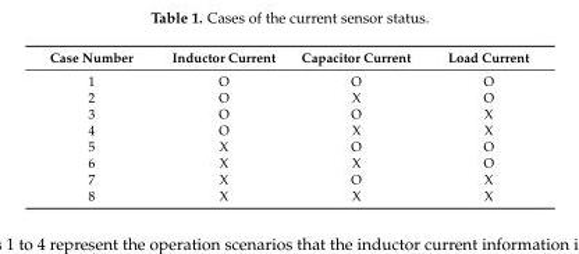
<table><thead><tr><td>Case Number</td><td>Inductor Current</td><td>Capacitor Current</td><td>Load Current</td></tr></thead><tbody><tr><td>1</td><td>O</td><td>O</td><td>O</td></tr><tr><td>2</td><td>O</td><td>X</td><td>O</td></tr><tr><td>3</td><td>O</td><td>O</td><td>X</td></tr><tr><td>4</td><td>O</td><td>X</td><td>X</td></tr><tr><td>5</td><td>X</td><td>O</td><td>O</td></tr><tr><td>6</td><td>X</td><td>X</td><td>O</td></tr><tr><td>7</td><td>X</td><td>O</td><td>X</td></tr><tr><td>8</td><td>X</td><td>X</td><td>X</td></tr></tbody></table>